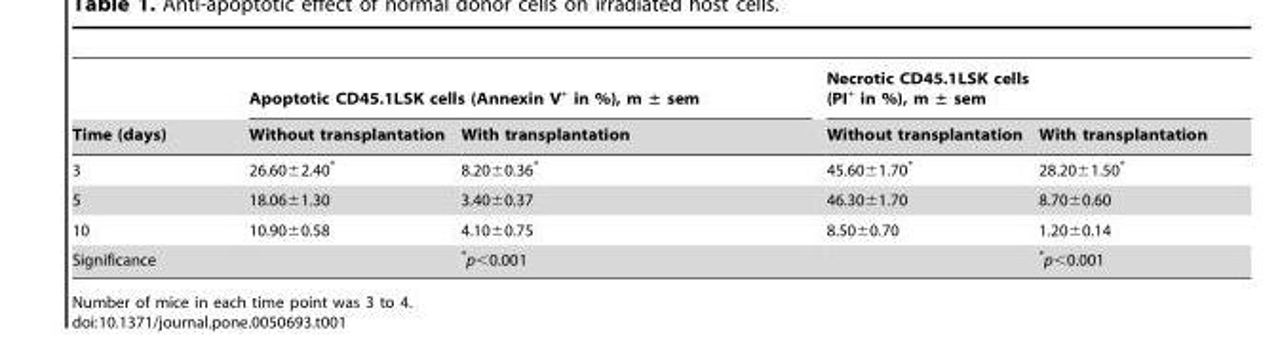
<table><thead><tr><td rowspan="2">Time (days)</td><td colspan="2">Apoptotic CD45.1LSK cells (Annexin V<sup>+</sup> in %), m ± sem</td><td colspan="2">Necrotic CD45.1LSK cells (PI<sup>+</sup> in %), m ± sem</td></tr><tr><td>Without transplantation</td><td>With transplantation</td><td>Without transplantation</td><td>With transplantation</td></tr></thead><tbody><tr><td>3</td><td>26.60±2.40*</td><td>8.20±0.36*</td><td>45.60±1.70*</td><td>28.20±1.50*</td></tr><tr><td>5</td><td>18.06±1.30</td><td>3.40±0.37</td><td>46.30±1.70</td><td>8.70±0.60</td></tr><tr><td>10</td><td>10.90±0.58</td><td>4.10±0.75</td><td>8.50±0.70</td><td>1.20±0.14</td></tr><tr><td>Significance</td><td></td><td>*p&lt;0.001</td><td></td><td>*p&lt;0.001</td></tr></tbody></table>